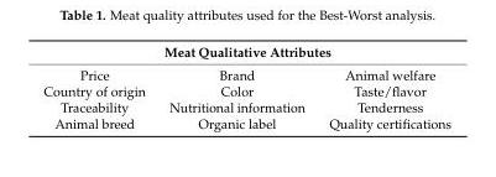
<table><thead><tr><td colspan="3">Meat Qualitative Attributes</td></tr><tr><td>Price</td><td>Brand</td><td>Animal welfare</td></tr></thead><tbody><tr><td>Country of origin</td><td>Color</td><td>Taste/flavor</td></tr><tr><td>Traceability</td><td>Nutritional information</td><td>Tenderness</td></tr><tr><td>Animal breed</td><td>Organic label</td><td>Quality certifications</td></tr></tbody></table>